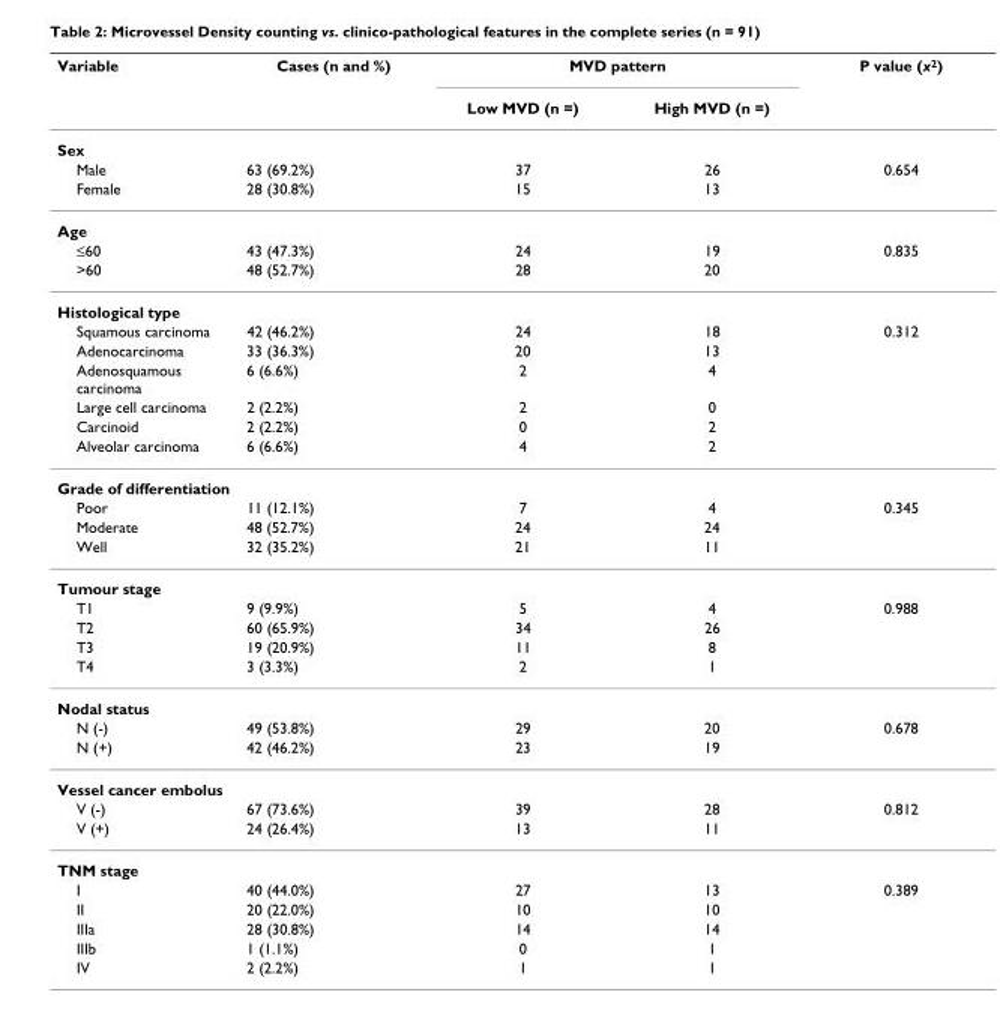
<table><thead><tr><td rowspan="2">Variable</td><td rowspan="2">Cases (n and %)</td><td colspan="2">MVD pattern</td><td rowspan="2">P value (x<sup>2</sup>)</td></tr><tr><td>Low MVD (n =)</td><td>High MVD (n =)</td></tr></thead><tbody><tr><td colspan="5">Sex</td></tr><tr><td>Male</td><td>63 (69.2%)</td><td>37</td><td>26</td><td>0.654</td></tr><tr><td>Female</td><td>28 (30.8%)</td><td>15</td><td>13</td><td></td></tr><tr><td colspan="5">Age</td></tr><tr><td>≤60</td><td>43 (47.3%)</td><td>24</td><td>19</td><td>0.835</td></tr><tr><td>&gt;60</td><td>48 (52.7%)</td><td>28</td><td>20</td><td></td></tr><tr><td colspan="5">Histological type</td></tr><tr><td>Squamous carcinoma</td><td>42 (46.2%)</td><td>24</td><td>18</td><td>0.312</td></tr><tr><td>Adenocarcinoma</td><td>33 (36.3%)</td><td>20</td><td>13</td><td></td></tr><tr><td>Adenosquamous carcinoma</td><td>6 (6.6%)</td><td>2</td><td>4</td><td></td></tr><tr><td>Large cell carcinoma</td><td>2 (2.2%)</td><td>2</td><td>0</td><td></td></tr><tr><td>Carcinoid</td><td>2 (2.2%)</td><td>0</td><td>2</td><td></td></tr><tr><td>Alveolar carcinoma</td><td>6 (6.6%)</td><td>4</td><td>2</td><td></td></tr><tr><td colspan="5">Grade of differentiation</td></tr><tr><td>Poor</td><td>11 (12.1%)</td><td>7</td><td>4</td><td>0.345</td></tr><tr><td>Moderate</td><td>48 (52.7%)</td><td>24</td><td>24</td><td></td></tr><tr><td>Well</td><td>32 (35.2%)</td><td>21</td><td>11</td><td></td></tr><tr><td colspan="5">Tumour stage</td></tr><tr><td>T1</td><td>9 (9.9%)</td><td>5</td><td>4</td><td>0.988</td></tr><tr><td>T2</td><td>60 (65.9%)</td><td>34</td><td>26</td><td></td></tr><tr><td>T3</td><td>19 (20.9%)</td><td>11</td><td>8</td><td></td></tr><tr><td>T4</td><td>3 (3.3%)</td><td>2</td><td>1</td><td></td></tr><tr><td colspan="5">Nodal status</td></tr><tr><td>N (-)</td><td>49 (53.8%)</td><td>29</td><td>20</td><td>0.678</td></tr><tr><td>N (+)</td><td>42 (46.2%)</td><td>23</td><td>19</td><td></td></tr><tr><td colspan="5">Vessel cancer embolus</td></tr><tr><td>V (-)</td><td>67 (73.6%)</td><td>39</td><td>28</td><td>0.812</td></tr><tr><td>V (+)</td><td>24 (26.4%)</td><td>13</td><td>11</td><td></td></tr><tr><td colspan="5">TNM stage</td></tr><tr><td>I</td><td>40 (44.0%)</td><td>27</td><td>13</td><td>0.389</td></tr><tr><td>II</td><td>20 (22.0%)</td><td>10</td><td>10</td><td></td></tr><tr><td>IIIa</td><td>28 (30.8%)</td><td>14</td><td>14</td><td></td></tr><tr><td>IIIb</td><td>1 (1.1%)</td><td>0</td><td>1</td><td></td></tr><tr><td>IV</td><td>2 (2.2%)</td><td>1</td><td>1</td><td></td></tr></tbody></table>